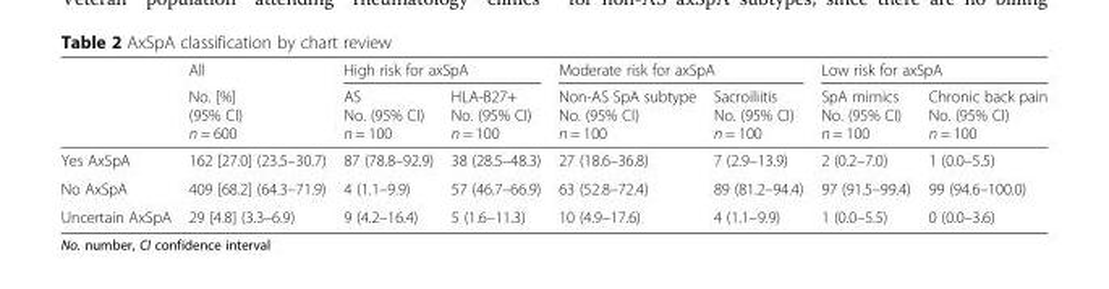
<table><thead><tr><td rowspan="2"></td><td rowspan="2">All No. [%] (95% CI) n = 600</td><td colspan="2">High risk for axSpA</td><td colspan="2">Moderate risk for axSpA</td><td colspan="2">Low risk for axSpA</td></tr><tr><td>AS No. (95% CI) n = 100</td><td>HLA-B27+ No. (95% CI) n = 100</td><td>Non-AS SpA subtype No. (95% CI) n = 100</td><td>Sacroiliitis No. (95% CI) n = 100</td><td>SpA mimics No. (95% CI) n = 100</td><td>Chronic back pain No. (95% CI) n = 100</td></tr></thead><tbody><tr><td>Yes AxSpA</td><td>162 [27.0] (23.5–30.7)</td><td>87 (78.8–92.9)</td><td>38 (28.5–48.3)</td><td>27 (18.6–36.8)</td><td>7 (2.9–13.9)</td><td>2 (0.2–7.0)</td><td>1 (0.0–5.5)</td></tr><tr><td>No AxSpA</td><td>409 [68.2] (64.3–71.9)</td><td>4 (1.1–9.9)</td><td>57 (46.7–66.9)</td><td>63 (52.8–72.4)</td><td>89 (81.2–94.4)</td><td>97 (91.5–99.4)</td><td>99 (94.6–100.0)</td></tr><tr><td>Uncertain AxSpA</td><td>29 [4.8] (3.3–6.9)</td><td>9 (4.2–16.4)</td><td>5 (1.6–11.3)</td><td>10 (4.9–17.6)</td><td>4 (1.1–9.9)</td><td>1 (0.0–5.5)</td><td>0 (0.0–3.6)</td></tr></tbody></table>